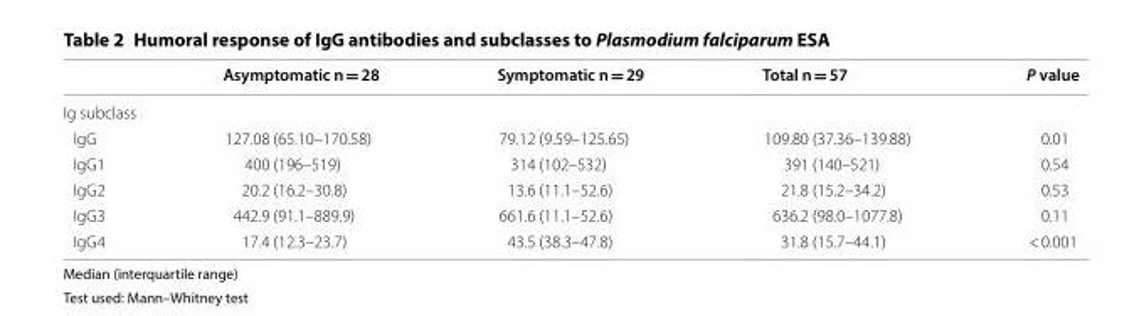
<table><thead><tr><td></td><td>Asymptomatic n = 28</td><td>Symptomatic n = 29</td><td>Total n = 57</td><td>P value</td></tr></thead><tbody><tr><td colspan="5">Ig subclass</td></tr><tr><td>IgG</td><td>127.08 (65.10–170.58)</td><td>79.12 (9.59–125.65)</td><td>109.80 (37.36–139.88)</td><td>0.01</td></tr><tr><td>IgG1</td><td>400 (196–519)</td><td>314 (102–532)</td><td>391 (140–521)</td><td>0.54</td></tr><tr><td>IgG2</td><td>20.2 (16.2–30.8)</td><td>13.6 (11.1–52.6)</td><td>21.8 (15.2–34.2)</td><td>0.53</td></tr><tr><td>IgG3</td><td>442.9 (91.1–889.9)</td><td>661.6 (11.1–52.6)</td><td>636.2 (98.0–1077.8)</td><td>0.11</td></tr><tr><td>IgG4</td><td>17.4 (12.3–23.7)</td><td>43.5 (38.3–47.8)</td><td>31.8 (15.7–44.1)</td><td>&lt; 0.001</td></tr></tbody></table>